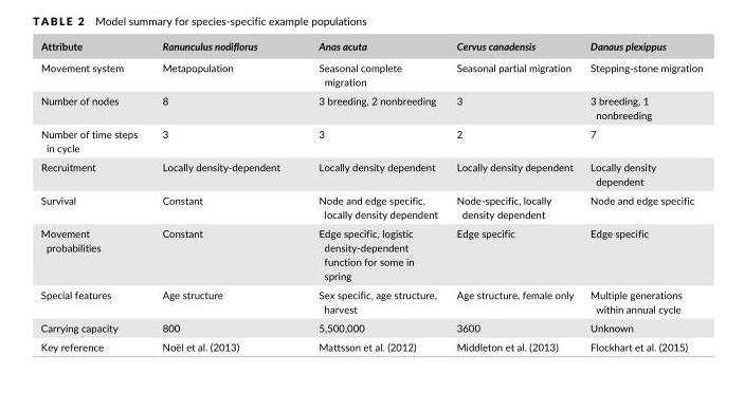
<table><thead><tr><td>Attribute</td><td>Ranunculus nodiflorus</td><td>Anas acuta</td><td>Cervus canadensis</td><td>Danaus plexippus</td></tr></thead><tbody><tr><td>Movement system</td><td>Metapopulation</td><td>Seasonal complete migration</td><td>Seasonal partial migration</td><td>Stepping- stone migration</td></tr><tr><td>Number of nodes</td><td>8</td><td>3 breeding, 2 nonbreeding</td><td>3</td><td>3 breeding, 1 nonbreeding</td></tr><tr><td>Number of time steps in cycle</td><td>3</td><td>3</td><td>2</td><td>7</td></tr><tr><td>Recruitment</td><td>Locally density- dependent</td><td>Locally density dependent</td><td>Locally density dependent</td><td>Locally density dependent</td></tr><tr><td>Survival</td><td>Constant</td><td>Node and edge specific, locally density dependent</td><td>Node- specific, locally density dependent</td><td>Node and edge specific</td></tr><tr><td>Movement probabilities</td><td>Constant</td><td>Edge specific, logistic density- dependent function for some in spring</td><td>Edge specific</td><td>Edge specific</td></tr><tr><td>Special features</td><td>Age structure</td><td>Sex specific, age structure, harvest</td><td>Age structure, female only</td><td>Multiple generations within annual cycle</td></tr><tr><td>Carrying capacity</td><td>800</td><td>5,500,000</td><td>3600</td><td>Unknown</td></tr><tr><td>Key reference</td><td>Noël et al. (2013)</td><td>Mattsson et al. (2012)</td><td>Middleton et al. (2013)</td><td>Flockhart et al. (2015)</td></tr></tbody></table>